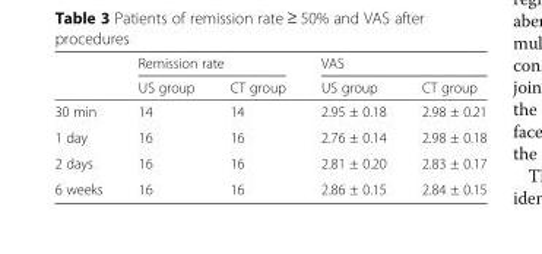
<table><thead><tr><td rowspan="2"></td><td colspan="2">Remission rate</td><td colspan="2">VAS</td></tr><tr><td>US group</td><td>CT group</td><td>US group</td><td>CT group</td></tr></thead><tbody><tr><td>30 min</td><td>14</td><td>14</td><td>2.95 ± 0.18</td><td>2.98 ± 0.21</td></tr><tr><td>1 day</td><td>16</td><td>16</td><td>2.76 ± 0.14</td><td>2.98 ± 0.18</td></tr><tr><td>2 days</td><td>16</td><td>16</td><td>2.81 ± 0.20</td><td>2.83 ± 0.17</td></tr><tr><td>6 weeks</td><td>16</td><td>16</td><td>2.86 ± 0.15</td><td>2.84 ± 0.15</td></tr></tbody></table>